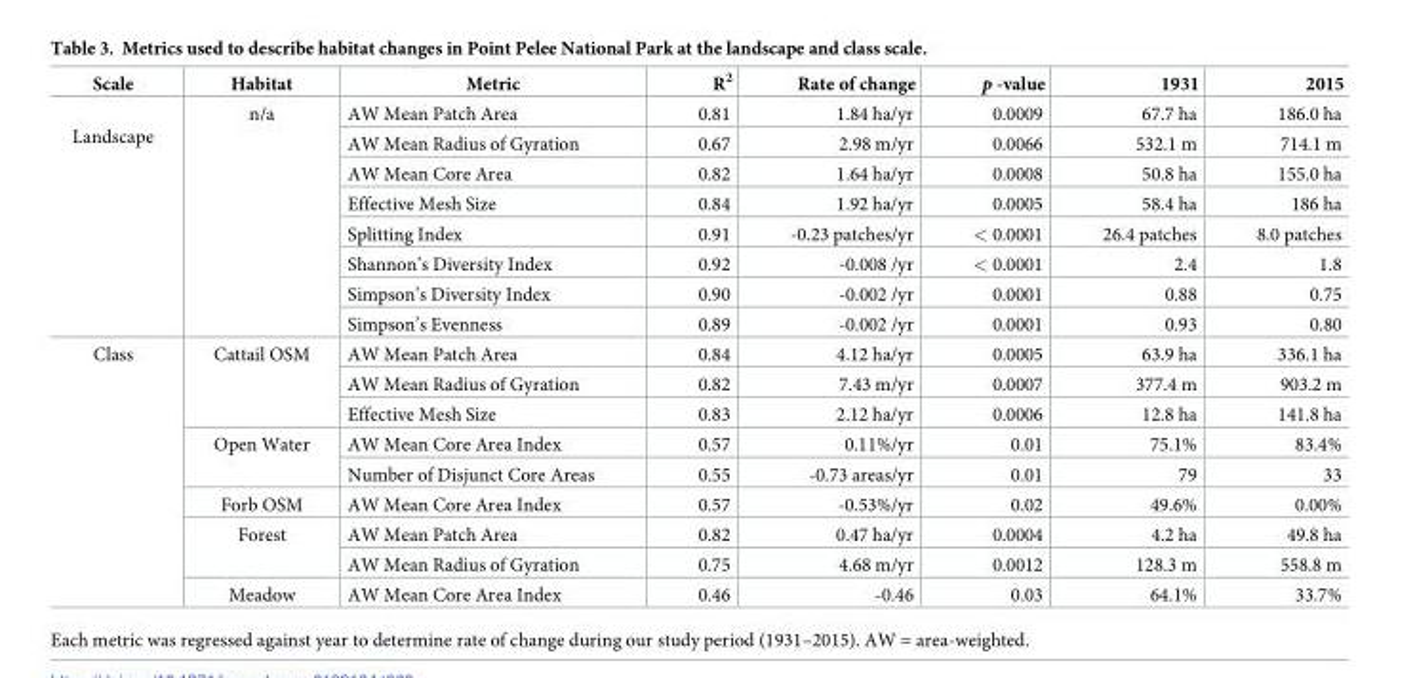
<table><thead><tr><td>Scale</td><td>Habitat</td><td>Metric</td><td>R<sup>2</sup></td><td>Rate of change</td><td>p -value</td><td>1931</td><td>2015</td></tr></thead><tbody><tr><td rowspan="8">Landscape</td><td rowspan="8">n/a</td><td>AW Mean Patch Area</td><td>0.81</td><td>1.84 ha/yr</td><td>0.0009</td><td>67.7 ha</td><td>186.0 ha</td></tr><tr><td>AW Mean Radius of Gyration</td><td>0.67</td><td>2.98 m/yr</td><td>0.0066</td><td>532.1 m</td><td>714.1 m</td></tr><tr><td>AW Mean Core Area</td><td>0.82</td><td>1.64 ha/yr</td><td>0.0008</td><td>50.8 ha</td><td>155.0 ha</td></tr><tr><td>Effective Mesh Size</td><td>0.84</td><td>1.92 ha/yr</td><td>0.0005</td><td>58.4 ha</td><td>186 ha</td></tr><tr><td>Splitting Index</td><td>0.91</td><td>-0.23 patches/yr</td><td>&lt; 0.0001</td><td>26.4 patches</td><td>8.0 patches</td></tr><tr><td>Shannon’s Diversity Index</td><td>0.92</td><td>-0.008 /yr</td><td>&lt; 0.0001</td><td>2.4</td><td>1.8</td></tr><tr><td>Simpson’s Diversity Index</td><td>0.90</td><td>-0.002 /yr</td><td>0.0001</td><td>0.88</td><td>0.75</td></tr><tr><td>Simpson’s Evenness</td><td>0.89</td><td>-0.002 /yr</td><td>0.0001</td><td>0.93</td><td>0.80</td></tr><tr><td rowspan="9">Class</td><td rowspan="3">Cattail OSM</td><td>AW Mean Patch Area</td><td>0.84</td><td>4.12 ha/yr</td><td>0.0005</td><td>63.9 ha</td><td>336.1 ha</td></tr><tr><td>AW Mean Radius of Gyration</td><td>0.82</td><td>7.43 m/yr</td><td>0.0007</td><td>377.4 m</td><td>903.2 m</td></tr><tr><td>Effective Mesh Size</td><td>0.83</td><td>2.12 ha/yr</td><td>0.0006</td><td>12.8 ha</td><td>141.8 ha</td></tr><tr><td rowspan="2">Open Water</td><td>AW Mean Core Area Index</td><td>0.57</td><td>0.11%/yr</td><td>0.01</td><td>75.1%</td><td>83.4%</td></tr><tr><td>Number of Disjunct Core Areas</td><td>0.55</td><td>-0.73 areas/yr</td><td>0.01</td><td>79</td><td>33</td></tr><tr><td>Forb OSM</td><td>AW Mean Core Area Index</td><td>0.57</td><td>-0.53%/yr</td><td>0.02</td><td>49.6%</td><td>0.00%</td></tr><tr><td rowspan="2">Forest</td><td>AW Mean Patch Area</td><td>0.82</td><td>0.47 ha/yr</td><td>0.0004</td><td>4.2 ha</td><td>49.8 ha</td></tr><tr><td>AW Mean Radius of Gyration</td><td>0.75</td><td>4.68 m/yr</td><td>0.0012</td><td>128.3 m</td><td>558.8 m</td></tr><tr><td>Meadow</td><td>AW Mean Core Area Index</td><td>0.46</td><td>-0.46</td><td>0.03</td><td>64.1%</td><td>33.7%</td></tr></tbody></table>